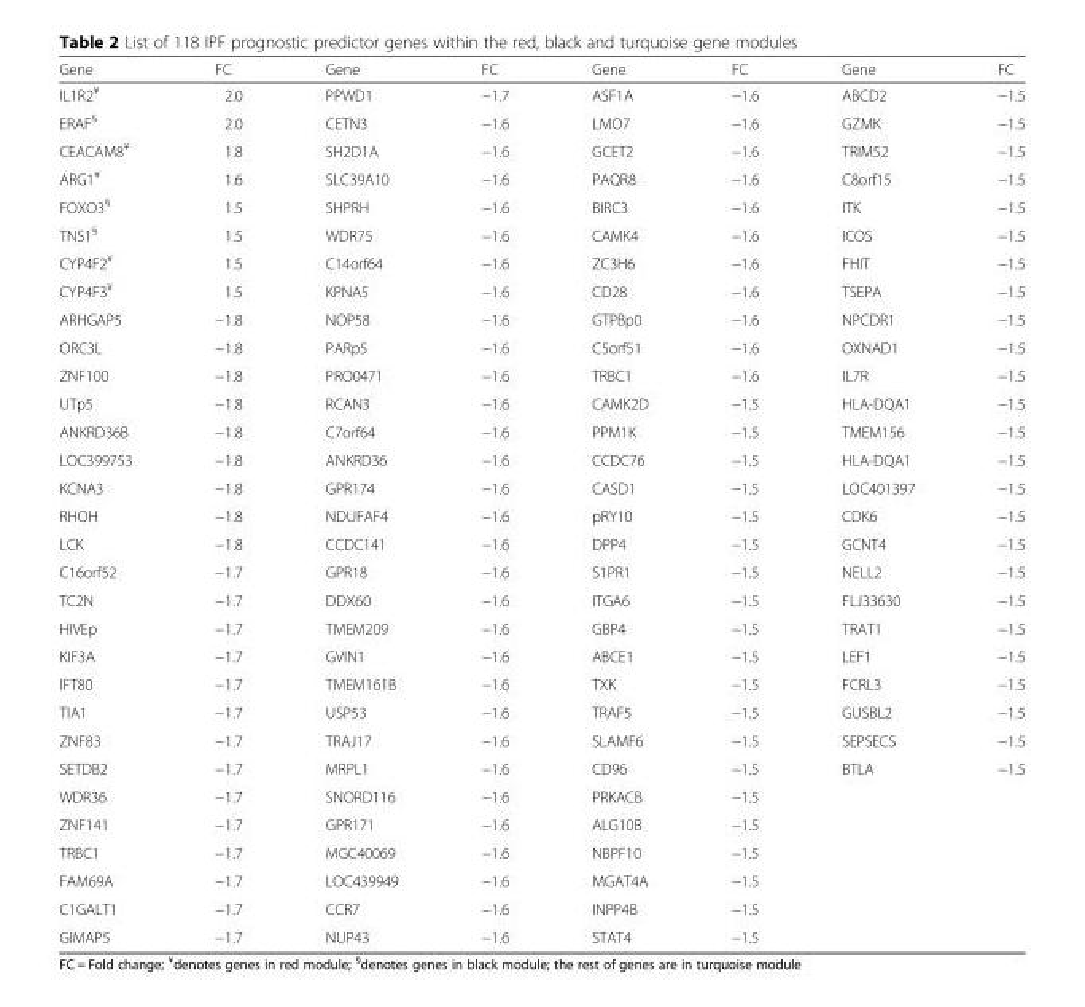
<table><thead><tr><td>Gene</td><td>FC</td><td>Gene</td><td>FC</td><td>Gene</td><td>FC</td><td>Gene</td><td>FC</td></tr></thead><tbody><tr><td>IL1R2<sup>¥</sup></td><td>2.0</td><td>PPWD1</td><td>−1.7</td><td>ASF1A</td><td>−1.6</td><td>ABCD2</td><td>−1.5</td></tr><tr><td>ERAF<sup>§</sup></td><td>2.0</td><td>CETN3</td><td>−1.6</td><td>LMO7</td><td>−1.6</td><td>GZMK</td><td>−1.5</td></tr><tr><td>CEACAM8<sup>¥</sup></td><td>1.8</td><td>SH2D1A</td><td>−1.6</td><td>GCET2</td><td>−1.6</td><td>TRIM52</td><td>−1.5</td></tr><tr><td>ARG1<sup>¥</sup></td><td>1.6</td><td>SLC39A10</td><td>−1.6</td><td>PAQR8</td><td>−1.6</td><td>C8orf15</td><td>−1.5</td></tr><tr><td>FOXO3<sup>§</sup></td><td>1.5</td><td>SHPRH</td><td>−1.6</td><td>BIRC3</td><td>−1.6</td><td>ITK</td><td>−1.5</td></tr><tr><td>TNS1<sup>§</sup></td><td>1.5</td><td>WDR75</td><td>−1.6</td><td>CAMK4</td><td>−1.6</td><td>ICOS</td><td>−1.5</td></tr><tr><td>CYP4F2<sup>¥</sup></td><td>1.5</td><td>C14orf64</td><td>−1.6</td><td>ZC3H6</td><td>−1.6</td><td>FHIT</td><td>−1.5</td></tr><tr><td>CYP4F3<sup>¥</sup></td><td>1.5</td><td>KPNA5</td><td>−1.6</td><td>CD28</td><td>−1.6</td><td>TSEPA</td><td>−1.5</td></tr><tr><td>ARHGAP5</td><td>−1.8</td><td>NOP58</td><td>−1.6</td><td>GTPBp0</td><td>−1.6</td><td>NPCDR1</td><td>−1.5</td></tr><tr><td>ORC3L</td><td>−1.8</td><td>PARp5</td><td>−1.6</td><td>C5orf51</td><td>−1.6</td><td>OXNAD1</td><td>−1.5</td></tr><tr><td>ZNF100</td><td>−1.8</td><td>PRO0471</td><td>−1.6</td><td>TRBC1</td><td>−1.6</td><td>IL7R</td><td>−1.5</td></tr><tr><td>UTp5</td><td>−1.8</td><td>RCAN3</td><td>−1.6</td><td>CAMK2D</td><td>−1.5</td><td>HLA-DQA1</td><td>−1.5</td></tr><tr><td>ANKRD36B</td><td>−1.8</td><td>C7orf64</td><td>−1.6</td><td>PPM1K</td><td>−1.5</td><td>TMEM156</td><td>−1.5</td></tr><tr><td>LOC399753</td><td>−1.8</td><td>ANKRD36</td><td>−1.6</td><td>CCDC76</td><td>−1.5</td><td>HLA-DQA1</td><td>−1.5</td></tr><tr><td>KCNA3</td><td>−1.8</td><td>GPR174</td><td>−1.6</td><td>CASD1</td><td>−1.5</td><td>LOC401397</td><td>−1.5</td></tr><tr><td>RHOH</td><td>−1.8</td><td>NDUFAF4</td><td>−1.6</td><td>pRY10</td><td>−1.5</td><td>CDK6</td><td>−1.5</td></tr><tr><td>LCK</td><td>−1.8</td><td>CCDC141</td><td>−1.6</td><td>DPP4</td><td>−1.5</td><td>GCNT4</td><td>−1.5</td></tr><tr><td>C16orf52</td><td>−1.7</td><td>GPR18</td><td>−1.6</td><td>S1PR1</td><td>−1.5</td><td>NELL2</td><td>−1.5</td></tr><tr><td>TC2N</td><td>−1.7</td><td>DDX60</td><td>−1.6</td><td>ITGA6</td><td>−1.5</td><td>FLJ33630</td><td>−1.5</td></tr><tr><td>HIVEp</td><td>−1.7</td><td>TMEM209</td><td>−1.6</td><td>GBP4</td><td>−1.5</td><td>TRAT1</td><td>−1.5</td></tr><tr><td>KIF3A</td><td>−1.7</td><td>GVIN1</td><td>−1.6</td><td>ABCE1</td><td>−1.5</td><td>LEF1</td><td>−1.5</td></tr><tr><td>IFT80</td><td>−1.7</td><td>TMEM161B</td><td>−1.6</td><td>TXK</td><td>−1.5</td><td>FCRL3</td><td>−1.5</td></tr><tr><td>TIA1</td><td>−1.7</td><td>USP53</td><td>−1.6</td><td>TRAF5</td><td>−1.5</td><td>GUSBL2</td><td>−1.5</td></tr><tr><td>ZNF83</td><td>−1.7</td><td>TRAJ17</td><td>−1.6</td><td>SLAMF6</td><td>−1.5</td><td>SEPSECS</td><td>−1.5</td></tr><tr><td>SETDB2</td><td>−1.7</td><td>MRPL1</td><td>−1.6</td><td>CD96</td><td>−1.5</td><td>BTLA</td><td>−1.5</td></tr><tr><td>WDR36</td><td>−1.7</td><td>SNORD116</td><td>−1.6</td><td>PRKACB</td><td>−1.5</td><td></td><td></td></tr><tr><td>ZNF141</td><td>−1.7</td><td>GPR171</td><td>−1.6</td><td>ALG10B</td><td>−1.5</td><td></td><td></td></tr><tr><td>TRBC1</td><td>−1.7</td><td>MGC40069</td><td>−1.6</td><td>NBPF10</td><td>−1.5</td><td></td><td></td></tr><tr><td>FAM69A</td><td>−1.7</td><td>LOC439949</td><td>−1.6</td><td>MGAT4A</td><td>−1.5</td><td></td><td></td></tr><tr><td>C1GALT1</td><td>−1.7</td><td>CCR7</td><td>−1.6</td><td>INPP4B</td><td>−1.5</td><td></td><td></td></tr><tr><td>GIMAP5</td><td>−1.7</td><td>NUP43</td><td>−1.6</td><td>STAT4</td><td>−1.5</td><td></td><td></td></tr></tbody></table>